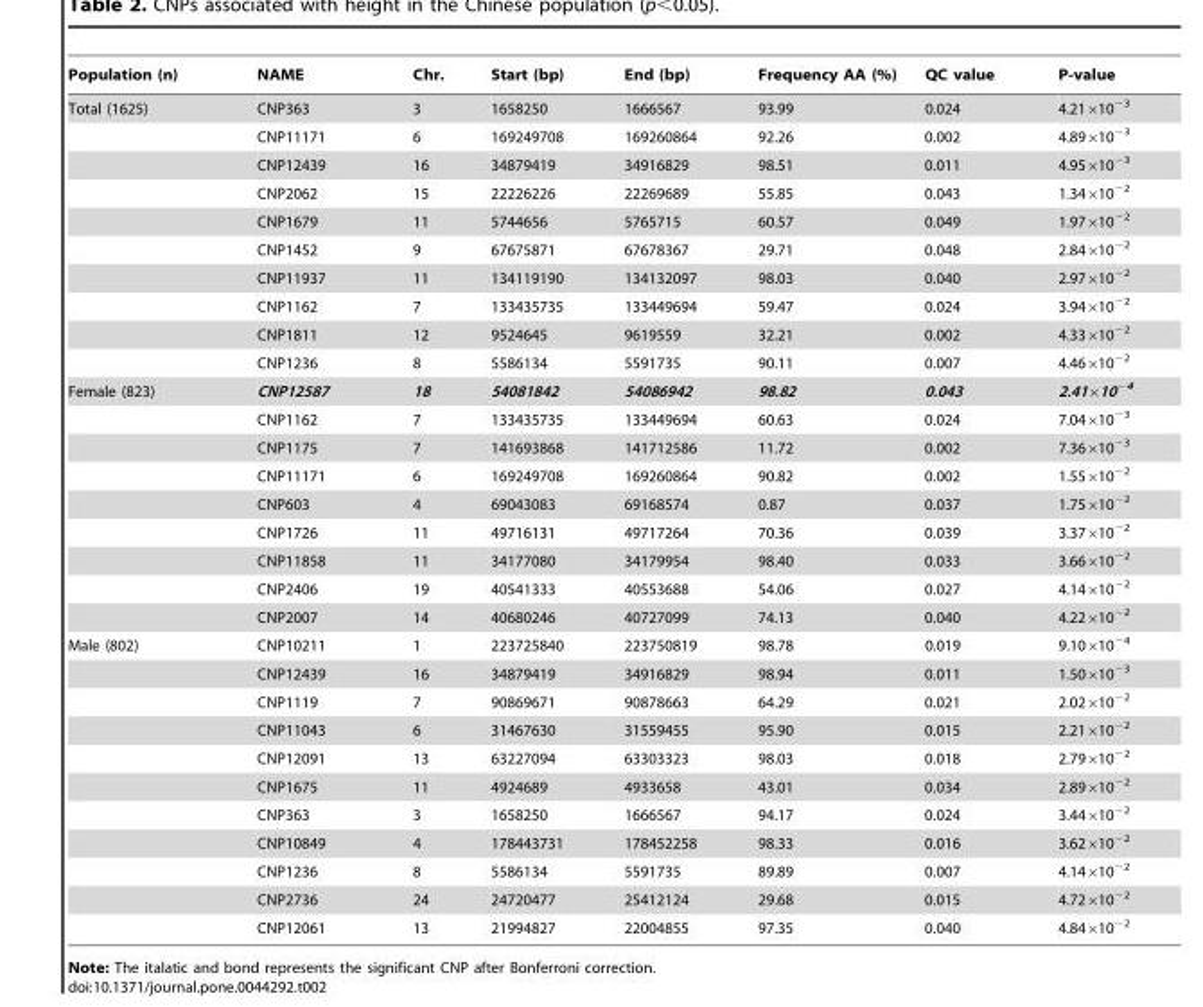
<table><thead><tr><td>Population (n)</td><td>NAME</td><td>Chr.</td><td>Start (bp)</td><td>End (bp)</td><td>Frequency AA (%)</td><td>QC value</td><td>P-value</td></tr></thead><tbody><tr><td rowspan="10">Total (1625)</td><td>CNP363</td><td>3</td><td>1658250</td><td>1666567</td><td>93.99</td><td>0.024</td><td>4.21×10<sup>−3</sup></td></tr><tr><td>CNP11171</td><td>6</td><td>169249708</td><td>169260864</td><td>92.26</td><td>0.002</td><td>4.89×10<sup>−3</sup></td></tr><tr><td>CNP12439</td><td>16</td><td>34879419</td><td>34916829</td><td>98.51</td><td>0.011</td><td>4.95×10<sup>−3</sup></td></tr><tr><td>CNP2062</td><td>15</td><td>22226226</td><td>22269689</td><td>55.85</td><td>0.043</td><td>1.34×10<sup>−2</sup></td></tr><tr><td>CNP1679</td><td>11</td><td>5744656</td><td>5765715</td><td>60.57</td><td>0.049</td><td>1.97×10<sup>−2</sup></td></tr><tr><td>CNP1452</td><td>9</td><td>67675871</td><td>67678367</td><td>29.71</td><td>0.048</td><td>2.84×10<sup>−2</sup></td></tr><tr><td>CNP11937</td><td>11</td><td>134119190</td><td>134132097</td><td>98.03</td><td>0.040</td><td>2.97×10<sup>−2</sup></td></tr><tr><td>CNP1162</td><td>7</td><td>133435735</td><td>133449694</td><td>59.47</td><td>0.024</td><td>3.94×10<sup>−2</sup></td></tr><tr><td>CNP1811</td><td>12</td><td>9524645</td><td>9619559</td><td>32.21</td><td>0.002</td><td>4.33×10<sup>−2</sup></td></tr><tr><td>CNP1236</td><td>8</td><td>5586134</td><td>5591735</td><td>90.11</td><td>0.007</td><td>4.46×10<sup>−2</sup></td></tr><tr><td rowspan="9">Female (823)</td><td>CNP12587</td><td>18</td><td>54081842</td><td>54086942</td><td>98.82</td><td>0.043</td><td>2.41×10<sup>−4</sup></td></tr><tr><td>CNP1162</td><td>7</td><td>133435735</td><td>133449694</td><td>60.63</td><td>0.024</td><td>7.04×10<sup>−3</sup></td></tr><tr><td>CNP1175</td><td>7</td><td>141693868</td><td>141712586</td><td>11.72</td><td>0.002</td><td>7.36×10<sup>−3</sup></td></tr><tr><td>CNP11171</td><td>6</td><td>169249708</td><td>169260864</td><td>90.82</td><td>0.002</td><td>1.55×10<sup>−2</sup></td></tr><tr><td>CNP603</td><td>4</td><td>69043083</td><td>69168574</td><td>0.87</td><td>0.037</td><td>1.75×10<sup>−2</sup></td></tr><tr><td>CNP1726</td><td>11</td><td>49716131</td><td>49717264</td><td>70.36</td><td>0.039</td><td>3.37×10<sup>−2</sup></td></tr><tr><td>CNP11858</td><td>11</td><td>34177080</td><td>34179954</td><td>98.40</td><td>0.033</td><td>3.66×10<sup>−2</sup></td></tr><tr><td>CNP2406</td><td>19</td><td>40541333</td><td>40553688</td><td>54.06</td><td>0.027</td><td>4.14×10<sup>−2</sup></td></tr><tr><td>CNP2007</td><td>14</td><td>40680246</td><td>40727099</td><td>74.13</td><td>0.040</td><td>4.22×10<sup>−2</sup></td></tr><tr><td rowspan="11">Male (802)</td><td>CNP10211</td><td>1</td><td>223725840</td><td>223750819</td><td>98.78</td><td>0.019</td><td>9.10×10<sup>−4</sup></td></tr><tr><td>CNP12439</td><td>16</td><td>34879419</td><td>34916829</td><td>98.94</td><td>0.011</td><td>1.50×10<sup>−3</sup></td></tr><tr><td>CNP1119</td><td>7</td><td>90869671</td><td>90878663</td><td>64.29</td><td>0.021</td><td>2.02×10<sup>−2</sup></td></tr><tr><td>CNP11043</td><td>6</td><td>31467630</td><td>31559455</td><td>95.90</td><td>0.015</td><td>2.21×10<sup>−2</sup></td></tr><tr><td>CNP12091</td><td>13</td><td>63227094</td><td>63303323</td><td>98.03</td><td>0.018</td><td>2.79×10<sup>−2</sup></td></tr><tr><td>CNP1675</td><td>11</td><td>4924689</td><td>4933658</td><td>43.01</td><td>0.034</td><td>2.89×10<sup>−2</sup></td></tr><tr><td>CNP363</td><td>3</td><td>1658250</td><td>1666567</td><td>94.17</td><td>0.024</td><td>3.44×10<sup>−2</sup></td></tr><tr><td>CNP10849</td><td>4</td><td>178443731</td><td>178452258</td><td>98.33</td><td>0.016</td><td>3.62×10<sup>−2</sup></td></tr><tr><td>CNP1236</td><td>8</td><td>5586134</td><td>5591735</td><td>89.89</td><td>0.007</td><td>4.14×10<sup>−2</sup></td></tr><tr><td>CNP2736</td><td>24</td><td>24720477</td><td>25412124</td><td>29.68</td><td>0.015</td><td>4.72×10<sup>−2</sup></td></tr><tr><td>CNP12061</td><td>13</td><td>21994827</td><td>22004855</td><td>97.35</td><td>0.040</td><td>4.84×10<sup>−2</sup></td></tr></tbody></table>